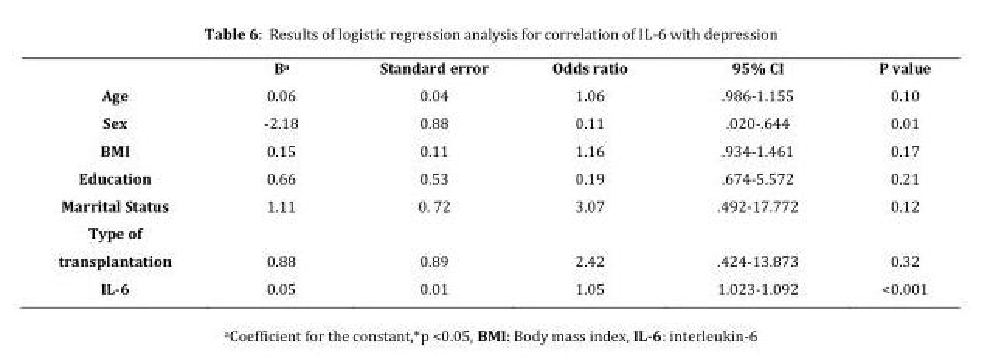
<table><thead><tr><td></td><td>Ba</td><td>Standard error</td><td>Odds ratio</td><td>95% CI</td><td>P value</td></tr></thead><tbody><tr><td>Age</td><td>0.06</td><td>0.04</td><td>1.06</td><td>.986-1.155</td><td>0.10</td></tr><tr><td>Sex</td><td>-2.18</td><td>0.88</td><td>0.11</td><td>.020-.644</td><td>0.01</td></tr><tr><td>BMI</td><td>0.15</td><td>0.11</td><td>1.16</td><td>.934-1.461</td><td>0.17</td></tr><tr><td>Education</td><td>0.66</td><td>0.53</td><td>0.19</td><td>.674-5.572</td><td>0.21</td></tr><tr><td>Marrital Status</td><td>1.11</td><td>0. 72</td><td>3.07</td><td>.492-17.772</td><td>0.12</td></tr><tr><td>Type of transplantation</td><td>0.88</td><td>0.89</td><td>2.42</td><td>.424-13.873</td><td>0.32</td></tr><tr><td>IL-6</td><td>0.05</td><td>0.01</td><td>1.05</td><td>1.023-1.092</td><td>&lt;0.001</td></tr></tbody></table>